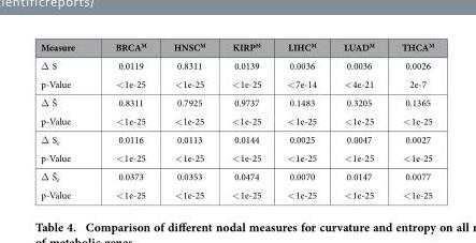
<table><thead><tr><td>Measure</td><td>BRCA<sup>M</sup></td><td>HNSC<sup>M</sup></td><td>KIRP<sup>M</sup></td><td>LIHC<sup>M</sup></td><td>LUAD<sup>M</sup></td><td>THCA<sup>M</sup></td></tr></thead><tbody><tr><td>Δ S</td><td>0.0119</td><td>0.8311</td><td>0.0139</td><td>0.0036</td><td>0.0036</td><td>0.0026</td></tr><tr><td>p-Value</td><td>&lt; 1e-25</td><td>&lt; 1e-25</td><td>&lt; 1e-25</td><td>&lt; 7e-14</td><td>&lt; 4e-21</td><td>2e-7</td></tr><tr><td>Δ Ŝ</td><td>0.8311</td><td>0.7925</td><td>0.9737</td><td>0.1483</td><td>0.3205</td><td>0.1365</td></tr><tr><td>p-Value</td><td>&lt; 1e-25</td><td>&lt; 1e-25</td><td>&lt; 1e-25</td><td>&lt; 1e-25</td><td>&lt; 1e-25</td><td>&lt; 1e-25</td></tr><tr><td>Δ S<sub>e</sub></td><td>0.0116</td><td>0.0113</td><td>0.0144</td><td>0.0025</td><td>0.0047</td><td>0.0027</td></tr><tr><td>p-Value</td><td>&lt; 1e-25</td><td>&lt; 1e-25</td><td>&lt; 1e-25</td><td>&lt; 1e-25</td><td>&lt; 1e-25</td><td>&lt; 1e-25</td></tr><tr><td>Δ Ŝ<sub>e</sub></td><td>0.0373</td><td>0.0353</td><td>0.0474</td><td>0.0070</td><td>0.0147</td><td>0.0077</td></tr><tr><td>p-Value</td><td>&lt; 1e-25</td><td>&lt; 1e-25</td><td>&lt; 1e-25</td><td>&lt; 1e-25</td><td>&lt; 1e-25</td><td>&lt; 1e-25</td></tr></tbody></table>